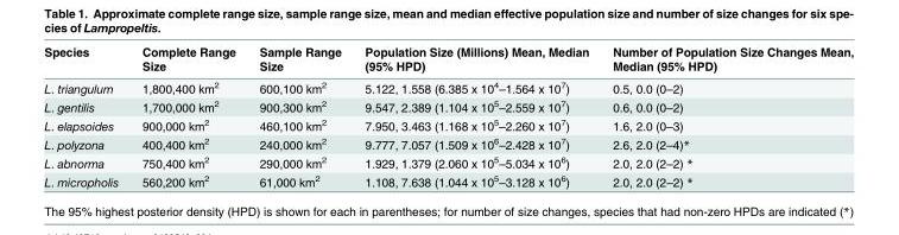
<table><thead><tr><td>Species</td><td>Complete Range Size</td><td>Sample Range Size</td><td>Population Size (Millions) Mean, Median (95% HPD)</td><td>Number of Population Size Changes Mean, Median (95% HPD)</td></tr></thead><tbody><tr><td>L. triangulum</td><td>1,800,400 km<sup>2</sup></td><td>600,100 km<sup>2</sup></td><td>5.122, 1.558 (6.385 x 10<sup>4</sup>–1.564 x 10<sup>7</sup>)</td><td>0.5, 0.0 (0–2)</td></tr><tr><td>L. gentilis</td><td>1,700,000 km<sup>2</sup></td><td>900,300 km<sup>2</sup></td><td>9.547, 2.389 (1.104 x 10<sup>5</sup>–2.559 x 10<sup>7</sup>)</td><td>0.6, 0.0 (0–2)</td></tr><tr><td>L. elapsoides</td><td>900,000 km<sup>2</sup></td><td>460,100 km<sup>2</sup></td><td>7.950, 3.463 (1.168 x 10<sup>5</sup>–2.260 x 10<sup>7</sup>)</td><td>1.6, 2.0 (0–3)</td></tr><tr><td>L. polyzona</td><td>400,400 km<sup>2</sup></td><td>240,000 km<sup>2</sup></td><td>9.777, 7.057 (1.509 x 10<sup>6</sup>–2.428 x 10<sup>7</sup>)</td><td>2.6, 2.0 (2–4)*</td></tr><tr><td>L. abnorma</td><td>750,400 km<sup>2</sup></td><td>290,000 km<sup>2</sup></td><td>1.929, 1.379 (2.060 x 10<sup>5</sup>–5.034 x 10<sup>6</sup>)</td><td>2.0, 2.0 (2–2) *</td></tr><tr><td>L. micropholis</td><td>560,200 km<sup>2</sup></td><td>61,000 km<sup>2</sup></td><td>1.108, 7.638 (1.044 x 10<sup>5</sup>–3.128 x 10<sup>6</sup>)</td><td>2.0, 2.0 (2–2) *</td></tr></tbody></table>